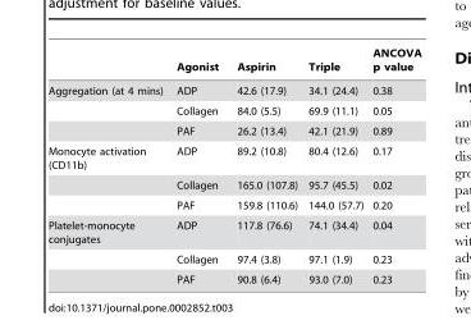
<table><thead><tr><td></td><td>Agonist</td><td>Aspirin</td><td>Triple</td><td>ANCOVA p value</td></tr></thead><tbody><tr><td rowspan="3">Aggregation (at 4 mins)</td><td>ADP</td><td>42.6 (17.9)</td><td>34.1 (24.4)</td><td>0.38</td></tr><tr><td>Collagen</td><td>84.0 (5.5)</td><td>69.9 (11.1)</td><td>0.05</td></tr><tr><td>PAF</td><td>26.2 (13.4)</td><td>42.1 (21.9)</td><td>0.89</td></tr><tr><td rowspan="3">Monocyte activation (CD11b)</td><td>ADP</td><td>89.2 (10.8)</td><td>80.4 (12.6)</td><td>0.17</td></tr><tr><td>Collagen</td><td>165.0 (107.8)</td><td>95.7 (45.5)</td><td>0.02</td></tr><tr><td>PAF</td><td>159.8 (110.6)</td><td>144.0 (57.7)</td><td>0.20</td></tr><tr><td rowspan="3">Platelet-monocyte conjugates</td><td>ADP</td><td>117.8 (76.6)</td><td>74.1 (34.4)</td><td>0.04</td></tr><tr><td>Collagen</td><td>97.4 (3.8)</td><td>97.1 (1.9)</td><td>0.23</td></tr><tr><td>PAF</td><td>90.8 (6.4)</td><td>93.0 (7.0)</td><td>0.23</td></tr></tbody></table>